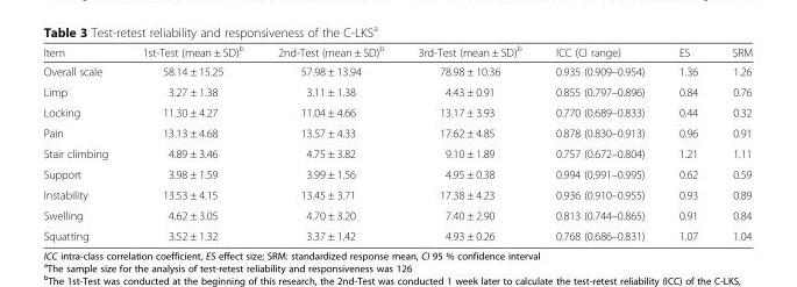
<table><thead><tr><td>Item</td><td>1st-Test (mean ± SD)<sup>b</sup></td><td>2nd-Test (mean ± SD)<sup>b</sup></td><td>3rd-Test (mean ± SD)<sup>b</sup></td><td>ICC (CI range)</td><td>ES</td><td>SRM</td></tr></thead><tbody><tr><td>Overall scale</td><td>58.14 ± 15.25</td><td>57.98 ± 13.94</td><td>78.98 ± 10.36</td><td>0.935 (0.909–0.954)</td><td>1.36</td><td>1.26</td></tr><tr><td>Limp</td><td>3.27 ± 1.38</td><td>3.11 ± 1.38</td><td>4.43 ± 0.91</td><td>0.855 (0.797–0.896)</td><td>0.84</td><td>0.76</td></tr><tr><td>Locking</td><td>11.30 ± 4.27</td><td>11.04 ± 4.66</td><td>13.17 ± 3.93</td><td>0.770 (0.689–0.833)</td><td>0.44</td><td>0.32</td></tr><tr><td>Pain</td><td>13.13 ± 4.68</td><td>13.57 ± 4.33</td><td>17.62 ± 4.85</td><td>0.878 (0.830–0.913)</td><td>0.96</td><td>0.91</td></tr><tr><td>Stair climbing</td><td>4.89 ± 3.46</td><td>4.75 ± 3.82</td><td>9.10 ± 1.89</td><td>0.757 (0.672–0.804)</td><td>1.21</td><td>1.11</td></tr><tr><td>Support</td><td>3.98 ± 1.59</td><td>3.99 ± 1.56</td><td>4.95 ± 0.38</td><td>0.994 (0.991–0.995)</td><td>0.62</td><td>0.59</td></tr><tr><td>Instability</td><td>13.53 ± 4.15</td><td>13.45 ± 3.71</td><td>17.38 ± 4.23</td><td>0.936 (0.910–0.955)</td><td>0.93</td><td>0.89</td></tr><tr><td>Swelling</td><td>4.62 ± 3.05</td><td>4.70 ± 3.20</td><td>7.40 ± 2.90</td><td>0.813 (0.744–0.865)</td><td>0.91</td><td>0.84</td></tr><tr><td>Squatting</td><td>3.52 ± 1.32</td><td>3.37 ± 1.42</td><td>4.93 ± 0.26</td><td>0.768 (0.686–0.831)</td><td>1.07</td><td>1.04</td></tr></tbody></table>